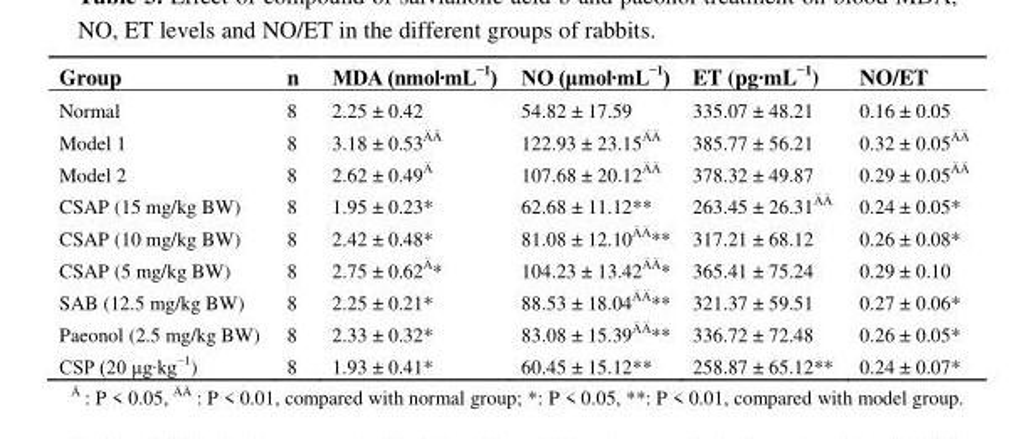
<table><thead><tr><td>Group</td><td>n</td><td>MDA (nmol·mL<sup>−1</sup>)</td><td>NO (μmol·mL<sup>−1</sup>)</td><td>ET (pg·mL<sup>−1</sup>)</td><td>NO/ET</td></tr></thead><tbody><tr><td>Normal</td><td>8</td><td>2.25 ± 0.42</td><td>54.82 ± 17.59</td><td>335.07 ± 48.21</td><td>0.16 ± 0.05</td></tr><tr><td>Model 1</td><td>8</td><td>3.18 ± 0.53ÄÄ</td><td>122.93 ± 23.15ÄÄ</td><td>385.77 ± 56.21</td><td>0.32 ± 0.05ÄÄ</td></tr><tr><td>Model 2</td><td>8</td><td>2.62 ± 0.49Ä</td><td>107.68 ± 20.12ÄÄ</td><td>378.32 ± 49.87</td><td>0.29 ± 0.05ÄÄ</td></tr><tr><td>CSAP (15 mg/kg BW)</td><td>8</td><td>1.95 ± 0.23*</td><td>62.68 ± 11.12**</td><td>263.45 ± 26.31ÄÄ</td><td>0.24 ± 0.05*</td></tr><tr><td>CSAP (10 mg/kg BW)</td><td>8</td><td>2.42 ± 0.48*</td><td>81.08 ± 12.10ÄÄ**</td><td>317.21 ± 68.12</td><td>0.26 ± 0.08*</td></tr><tr><td>CSAP (5 mg/kg BW)</td><td>8</td><td>2.75 ± 0.62Ä*</td><td>104.23 ± 13.42ÄÄ*</td><td>365.41 ± 75.24</td><td>0.29 ± 0.10</td></tr><tr><td>SAB (12.5 mg/kg BW)</td><td>8</td><td>2.25 ± 0.21*</td><td>88.53 ± 18.04ÄÄ**</td><td>321.37 ± 59.51</td><td>0.27 ± 0.06*</td></tr><tr><td>Paeonol (2.5 mg/kg BW)</td><td>8</td><td>2.33 ± 0.32*</td><td>83.08 ± 15.39ÄÄ**</td><td>336.72 ± 72.48</td><td>0.26 ± 0.05*</td></tr><tr><td>CSP (20 μg·kg<sup>−1</sup>)</td><td>8</td><td>1.93 ± 0.41*</td><td>60.45 ± 15.12**</td><td>258.87 ± 65.12**</td><td>0.24 ± 0.07*</td></tr></tbody></table>